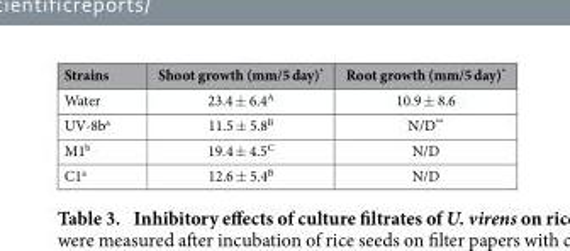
<table><thead><tr><td>Strains</td><td>Shoot growth (mm/5 day)*</td><td>Root growth (mm/5 day)*</td></tr></thead><tbody><tr><td>Water</td><td>23.4 ± 6.4<sup>A</sup></td><td>10.9 ± 8.6</td></tr><tr><td>UV-8b<sup>a</sup></td><td>11.5 ± 5.8<sup>B</sup></td><td>N/D**</td></tr><tr><td>M1<sup>b</sup></td><td>19.4 ± 4.5<sup>C</sup></td><td>N/D</td></tr><tr><td>C1<sup>a</sup></td><td>12.6 ± 5.4<sup>B</sup></td><td>N/D</td></tr></tbody></table>